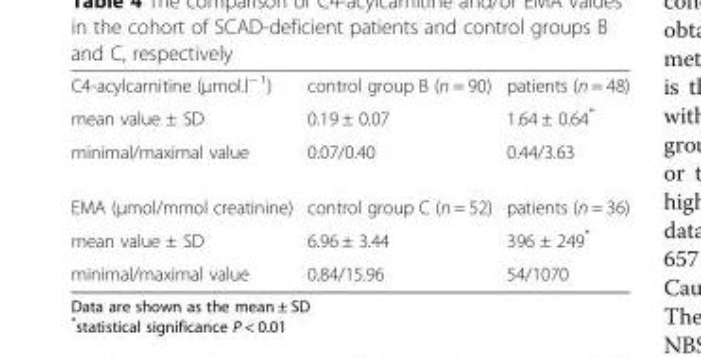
<table><tbody><tr><td>C4-acylcarnitine (μmol.l<sup>− 1</sup>)</td><td>control group B (n = 90)</td><td>patients (n = 48)</td></tr><tr><td>mean value ± SD</td><td>0.19 ± 0.07</td><td>1.64 ± 0.64*</td></tr><tr><td>minimal/maximal value</td><td>0.07/0.40</td><td>0.44/3.63</td></tr><tr><td>EMA (μmol/mmol creatinine)</td><td>control group C (n = 52)</td><td>patients (n = 36)</td></tr><tr><td>mean value ± SD</td><td>6.96 ± 3.44</td><td>396 ± 249*</td></tr><tr><td>minimal/maximal value</td><td>0.84/15.96</td><td>54/1070</td></tr></tbody></table>